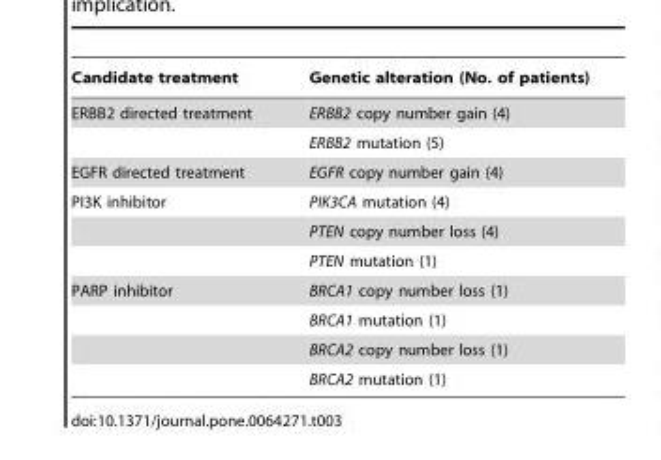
<table><thead><tr><td>Candidate treatment</td><td>Genetic alteration (No. of patients)</td></tr></thead><tbody><tr><td rowspan="2">ERBB2 directed treatment</td><td>ERBB2 copy number gain (4)</td></tr><tr><td>ERBB2 mutation (5)</td></tr><tr><td>EGFR directed treatment</td><td>EGFR copy number gain (4)</td></tr><tr><td rowspan="3">PI3K inhibitor</td><td>PIK3CA mutation (4)</td></tr><tr><td>PTEN copy number loss (4)</td></tr><tr><td>PTEN mutation (1)</td></tr><tr><td rowspan="4">PARP inhibitor</td><td>BRCA1 copy number loss (1)</td></tr><tr><td>BRCA1 mutation (1)</td></tr><tr><td>BRCA2 copy number loss (1)</td></tr><tr><td>BRCA2 mutation (1)</td></tr></tbody></table>